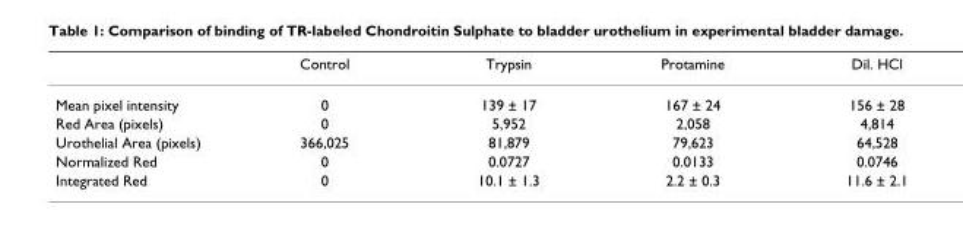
<table><thead><tr><td></td><td>Control</td><td>Trypsin</td><td>Protamine</td><td>Dil. HCl</td></tr></thead><tbody><tr><td>Mean pixel intensity</td><td>0</td><td>139 ± 17</td><td>167 ± 24</td><td>156 ± 28</td></tr><tr><td>Red Area (pixels)</td><td>0</td><td>5,952</td><td>2,058</td><td>4,814</td></tr><tr><td>Urothelial Area (pixels)</td><td>366,025</td><td>81,879</td><td>79,623</td><td>64,528</td></tr><tr><td>Normalized Red</td><td>0</td><td>0.0727</td><td>0.0133</td><td>0.0746</td></tr><tr><td>Integrated Red</td><td>0</td><td>10.1 ± 1.3</td><td>2.2 ± 0.3</td><td>11.6 ± 2.1</td></tr></tbody></table>